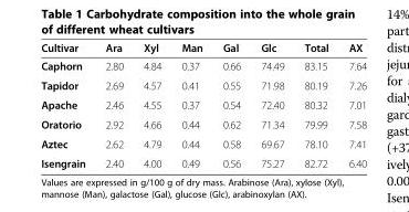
<table><thead><tr><td>Cultivar</td><td>Ara</td><td>Xyl</td><td>Man</td><td>Gal</td><td>Glc</td><td>Total</td><td>AX</td></tr></thead><tbody><tr><td>Caphorn</td><td>2.80</td><td>4.84</td><td>0.37</td><td>0.66</td><td>74.49</td><td>83.15</td><td>7.64</td></tr><tr><td>Tapidor</td><td>2.69</td><td>4.57</td><td>0.41</td><td>0.55</td><td>71.98</td><td>80.19</td><td>7.26</td></tr><tr><td>Apache</td><td>2.46</td><td>4.55</td><td>0.37</td><td>0.54</td><td>72.40</td><td>80.32</td><td>7.01</td></tr><tr><td>Oratorio</td><td>2.92</td><td>4.66</td><td>0.44</td><td>0.62</td><td>71.34</td><td>79.99</td><td>7.58</td></tr><tr><td>Aztec</td><td>2.62</td><td>4.79</td><td>0.44</td><td>0.58</td><td>69.67</td><td>78.10</td><td>7.41</td></tr><tr><td>Isengrain</td><td>2.40</td><td>4.00</td><td>0.49</td><td>0.56</td><td>75.27</td><td>82.72</td><td>6.40</td></tr></tbody></table>